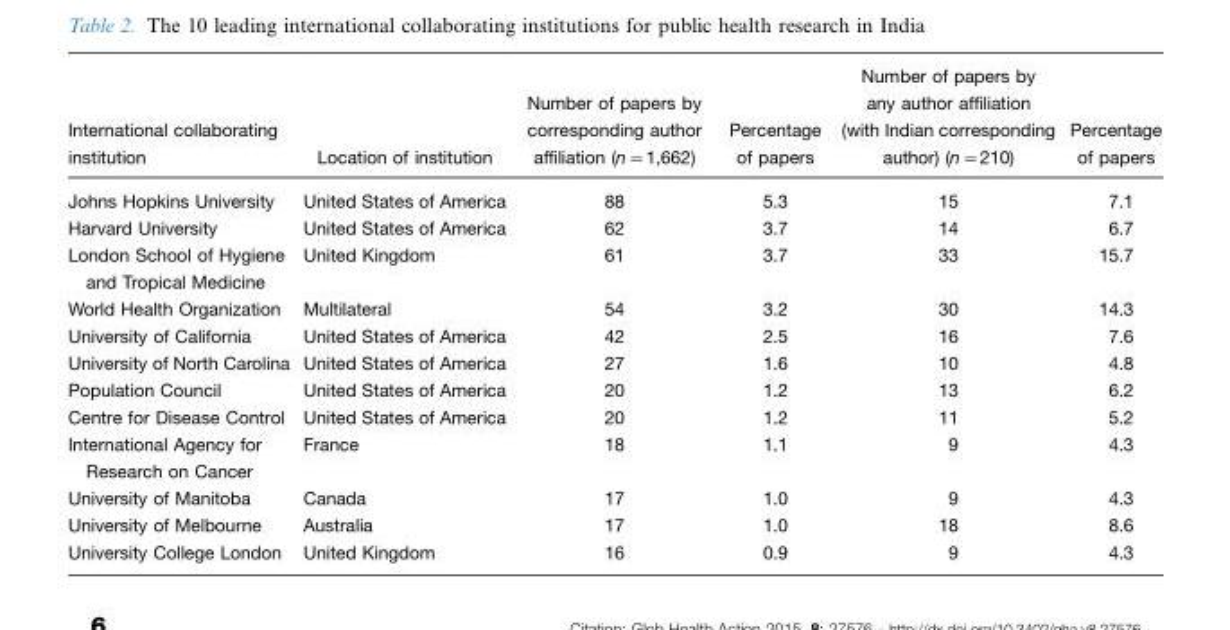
<table><thead><tr><td>International collaborating institution</td><td>Location of institution</td><td>Number of papers by corresponding author affiliation (n=1,662)</td><td>Percentage of papers</td><td>Number of papers by any author affiliation (with Indian corresponding author) (n=210)</td><td>Percentage of papers</td></tr></thead><tbody><tr><td>Johns Hopkins University</td><td>United States of America</td><td>88</td><td>5.3</td><td>15</td><td>7.1</td></tr><tr><td>Harvard University</td><td>United States of America</td><td>62</td><td>3.7</td><td>14</td><td>6.7</td></tr><tr><td>London School of Hygiene and Tropical Medicine</td><td>United Kingdom</td><td>61</td><td>3.7</td><td>33</td><td>15.7</td></tr><tr><td>World Health Organization</td><td>Multilateral</td><td>54</td><td>3.2</td><td>30</td><td>14.3</td></tr><tr><td>University of California</td><td>United States of America</td><td>42</td><td>2.5</td><td>16</td><td>7.6</td></tr><tr><td>University of North Carolina</td><td>United States of America</td><td>27</td><td>1.6</td><td>10</td><td>4.8</td></tr><tr><td>Population Council</td><td>United States of America</td><td>20</td><td>1.2</td><td>13</td><td>6.2</td></tr><tr><td>Centre for Disease Control</td><td>United States of America</td><td>20</td><td>1.2</td><td>11</td><td>5.2</td></tr><tr><td>International Agency for Research on Cancer</td><td>France</td><td>18</td><td>1.1</td><td>9</td><td>4.3</td></tr><tr><td>University of Manitoba</td><td>Canada</td><td>17</td><td>1.0</td><td>9</td><td>4.3</td></tr><tr><td>University of Melbourne</td><td>Australia</td><td>17</td><td>1.0</td><td>18</td><td>8.6</td></tr><tr><td>University College London</td><td>United Kingdom</td><td>16</td><td>0.9</td><td>9</td><td>4.3</td></tr></tbody></table>